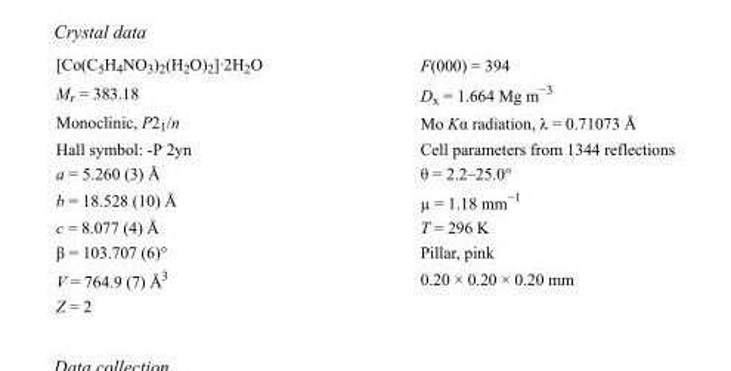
<table><tbody><tr><td>[Co(C<sub>5</sub>H<sub>4</sub>NO<sub>3</sub>)<sub>2</sub>(H<sub>2</sub>O)<sub>2</sub>]·2H<sub>2</sub>O</td><td>F(000) = 394</td></tr><tr><td>M<sub>r</sub> = 383.18</td><td>D<sub>x</sub> = 1.664 Mg m<sup>−3</sup></td></tr><tr><td>Monoclinic, P2<sub>1</sub>/n</td><td>Mo Kα radiation, λ = 0.71073 Å</td></tr><tr><td>Hall symbol: -P 2yn</td><td>Cell parameters from 1344 reflections</td></tr><tr><td>a = 5.260 (3) Å</td><td>θ = 2.2–25.0°</td></tr><tr><td>b = 18.528 (10) Å</td><td>µ = 1.18 mm<sup>−1</sup></td></tr><tr><td>c = 8.077 (4) Å</td><td>T = 296 K</td></tr><tr><td>β = 103.707 (6)°</td><td>Pillar, pink</td></tr><tr><td>V = 764.9 (7) Å<sup>3</sup></td><td>0.20 × 0.20 × 0.20 mm</td></tr><tr><td>Z = 2</td><td></td></tr></tbody></table>